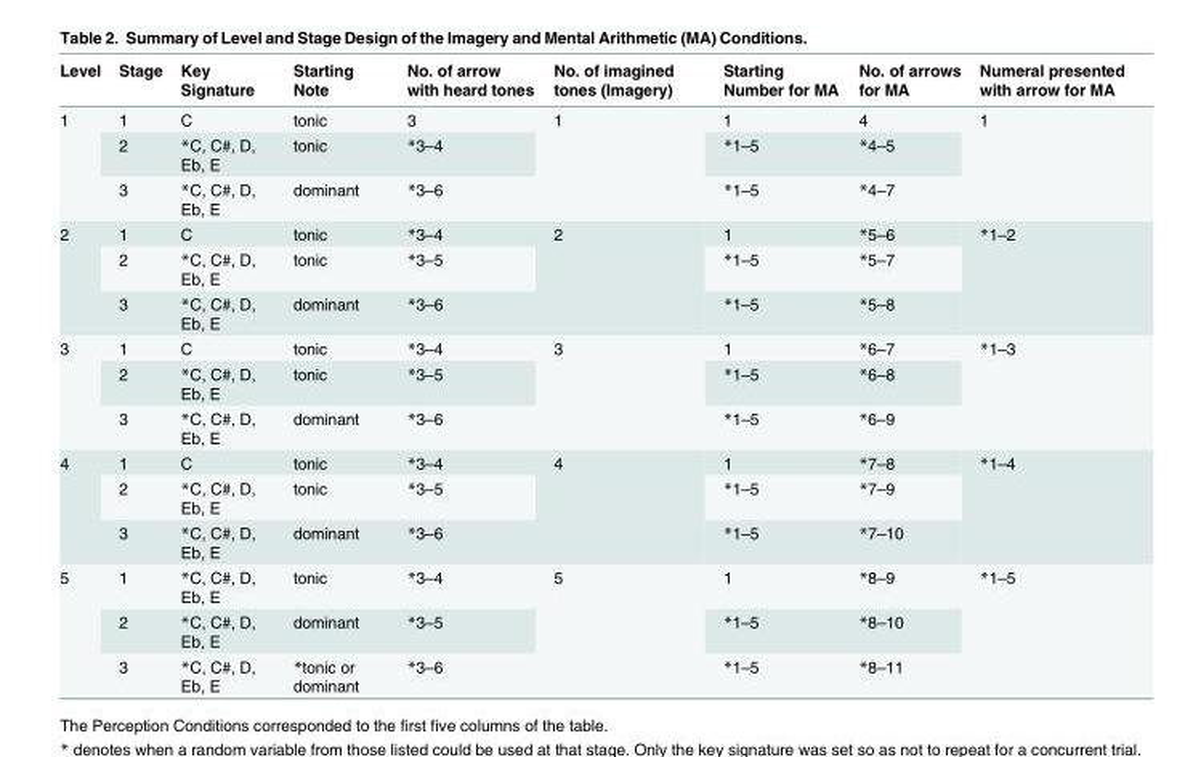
<table><thead><tr><td>Level</td><td>Stage</td><td>Key Signature</td><td>Starting Note</td><td>No. of arrow with heard tones</td><td>No. of imagined tones (Imagery)</td><td>Starting Number for MA</td><td>No. of arrows for MA</td><td>Numeral presented with arrow for MA</td></tr></thead><tbody><tr><td rowspan="3">1</td><td>1</td><td>C</td><td>tonic</td><td>3</td><td rowspan="3">1</td><td>1</td><td>4</td><td rowspan="3">1</td></tr><tr><td>2</td><td>*C, C#, D, Eb, E</td><td>tonic</td><td>*3–4</td><td>*1–5</td><td>*4–5</td></tr><tr><td>3</td><td>*C, C#, D, Eb, E</td><td>dominant</td><td>*3–6</td><td>*1–5</td><td>*4–7</td></tr><tr><td rowspan="3">2</td><td>1</td><td>C</td><td>tonic</td><td>*3–4</td><td rowspan="3">2</td><td>1</td><td>*5–6</td><td rowspan="3">*1–2</td></tr><tr><td>2</td><td>*C, C#, D, Eb, E</td><td>tonic</td><td>*3–5</td><td>*1–5</td><td>*5–7</td></tr><tr><td>3</td><td>*C, C#, D, Eb, E</td><td>dominant</td><td>*3–6</td><td>*1–5</td><td>*5–8</td></tr><tr><td rowspan="3">3</td><td>1</td><td>C</td><td>tonic</td><td>*3–4</td><td rowspan="3">3</td><td>1</td><td>*6–7</td><td rowspan="3">*1–3</td></tr><tr><td>2</td><td>*C, C#, D, Eb, E</td><td>tonic</td><td>*3–5</td><td>*1–5</td><td>*6–8</td></tr><tr><td>3</td><td>*C, C#, D, Eb, E</td><td>dominant</td><td>*3–6</td><td>*1–5</td><td>*6–9</td></tr><tr><td rowspan="3">4</td><td>1</td><td>C</td><td>tonic</td><td>*3–4</td><td rowspan="3">4</td><td>1</td><td>*7–8</td><td rowspan="3">*1–4</td></tr><tr><td>2</td><td>*C, C#, D, Eb, E</td><td>tonic</td><td>*3–5</td><td>*1–5</td><td>*7–9</td></tr><tr><td>3</td><td>*C, C#, D, Eb, E</td><td>dominant</td><td>*3–6</td><td>*1–5</td><td>*7–10</td></tr><tr><td rowspan="3">5</td><td>1</td><td>*C, C#, D, Eb, E</td><td>tonic</td><td>*3–4</td><td rowspan="3">5</td><td>1</td><td>*8–9</td><td rowspan="3">*1–5</td></tr><tr><td>2</td><td>*C, C#, D, Eb, E</td><td>dominant</td><td>*3–5</td><td>*1–5</td><td>*8–10</td></tr><tr><td>3</td><td>*C, C#, D, Eb, E</td><td>*tonic or dominant</td><td>*3–6</td><td>*1–5</td><td>*8–11</td></tr></tbody></table>